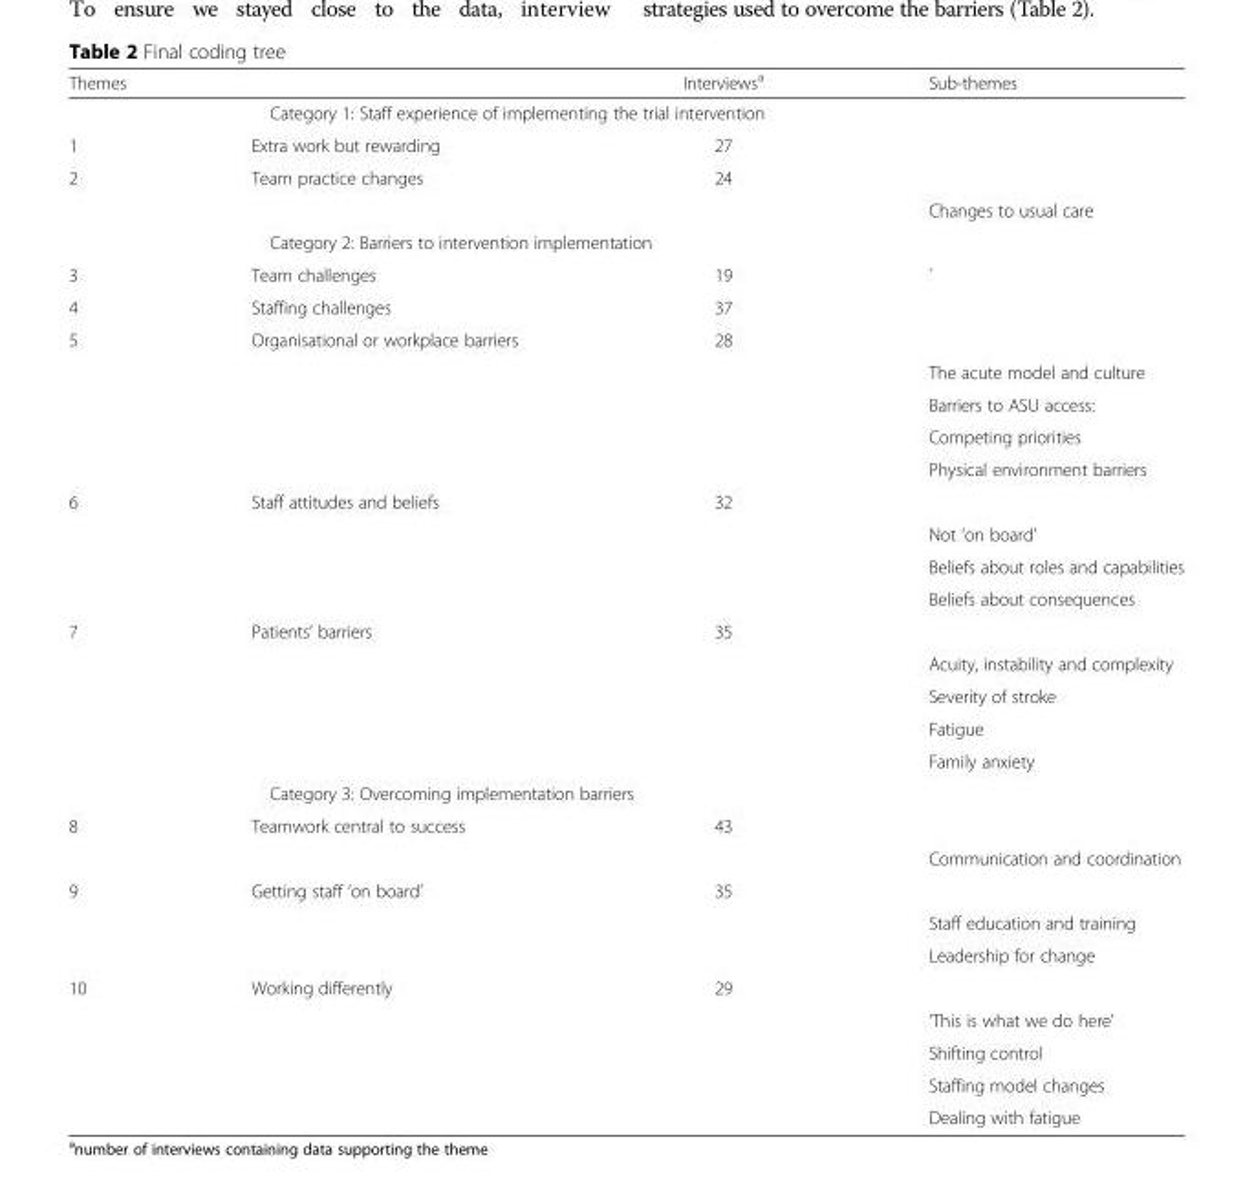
<table><thead><tr><td colspan="2">Themes</td><td>Interviews<sup>a</sup></td><td>Sub-themes</td></tr><tr><td rowspan="2">1</td><td colspan="3">Category 1: Staff experience of implementing the trial intervention</td></tr><tr><td>Extra work but rewarding</td><td>27</td><td></td></tr></thead><tbody><tr><td rowspan="3">2</td><td>Team practice changes</td><td>24</td><td></td></tr><tr><td></td><td></td><td>Changes to usual care</td></tr><tr><td colspan="3">Category 2: Barriers to intervention implementation</td></tr><tr><td>3</td><td>Team challenges</td><td>19</td><td>`</td></tr><tr><td>4</td><td>Staffing challenges</td><td>37</td><td></td></tr><tr><td rowspan="5">5</td><td>Organisational or workplace barriers</td><td>28</td><td></td></tr><tr><td></td><td></td><td>The acute model and culture</td></tr><tr><td></td><td></td><td>Barriers to ASU access:</td></tr><tr><td></td><td></td><td>Competing priorities</td></tr><tr><td></td><td></td><td>Physical environment barriers</td></tr><tr><td rowspan="4">6</td><td>Staff attitudes and beliefs</td><td>32</td><td></td></tr><tr><td></td><td></td><td>Not ‘on board’</td></tr><tr><td></td><td></td><td>Beliefs about roles and capabilities</td></tr><tr><td></td><td></td><td>Beliefs about consequences</td></tr><tr><td rowspan="6">7</td><td>Patients’ barriers</td><td>35</td><td></td></tr><tr><td></td><td></td><td>Acuity, instability and complexity</td></tr><tr><td></td><td></td><td>Severity of stroke</td></tr><tr><td></td><td></td><td>Fatigue</td></tr><tr><td></td><td></td><td>Family anxiety</td></tr><tr><td colspan="3">Category 3: Overcoming implementation barriers</td></tr><tr><td rowspan="2">8</td><td>Teamwork central to success</td><td>43</td><td></td></tr><tr><td></td><td></td><td>Communication and coordination</td></tr><tr><td rowspan="3">9</td><td>Getting staff ‘on board’</td><td>35</td><td></td></tr><tr><td></td><td></td><td>Staff education and training</td></tr><tr><td></td><td></td><td>Leadership for change</td></tr><tr><td rowspan="5">10</td><td>Working differently</td><td>29</td><td></td></tr><tr><td></td><td></td><td>‘This is what we do here’</td></tr><tr><td></td><td></td><td>Shifting control</td></tr><tr><td></td><td></td><td>Staffing model changes</td></tr><tr><td></td><td></td><td>Dealing with fatigue</td></tr></tbody></table>